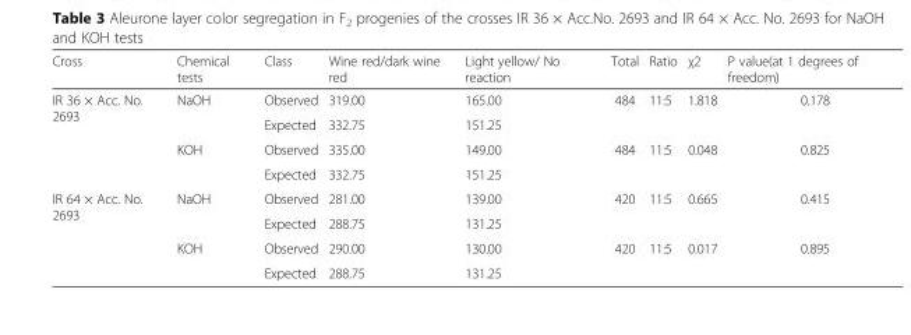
<table><thead><tr><td>Cross</td><td>Chemical tests</td><td>Class</td><td>Wine red/dark wine red</td><td>Light yellow/ No reaction</td><td>Total</td><td>Ratio</td><td>χ2</td><td>P value(at 1 degrees of freedom)</td></tr></thead><tbody><tr><td rowspan="4">IR 36 × Acc. No. 2693</td><td rowspan="2">NaOH</td><td>Observed</td><td>319.00</td><td>165.00</td><td rowspan="2">484</td><td rowspan="2">11:5</td><td rowspan="2">1.818</td><td rowspan="2">0.178</td></tr><tr><td>Expected</td><td>332.75</td><td>151.25</td></tr><tr><td rowspan="2">KOH</td><td>Observed</td><td>335.00</td><td>149.00</td><td rowspan="2">484</td><td rowspan="2">11:5</td><td rowspan="2">0.048</td><td rowspan="2">0.825</td></tr><tr><td>Expected</td><td>332.75</td><td>151.25</td></tr><tr><td rowspan="4">IR 64 × Acc. No. 2693</td><td rowspan="2">NaOH</td><td>Observed</td><td>281.00</td><td>139.00</td><td rowspan="2">420</td><td rowspan="2">11:5</td><td rowspan="2">0.665</td><td rowspan="2">0.415</td></tr><tr><td>Expected</td><td>288.75</td><td>131.25</td></tr><tr><td rowspan="2">KOH</td><td>Observed</td><td>290.00</td><td>130.00</td><td rowspan="2">420</td><td rowspan="2">11:5</td><td rowspan="2">0.017</td><td rowspan="2">0.895</td></tr><tr><td>Expected</td><td>288.75</td><td>131.25</td></tr></tbody></table>